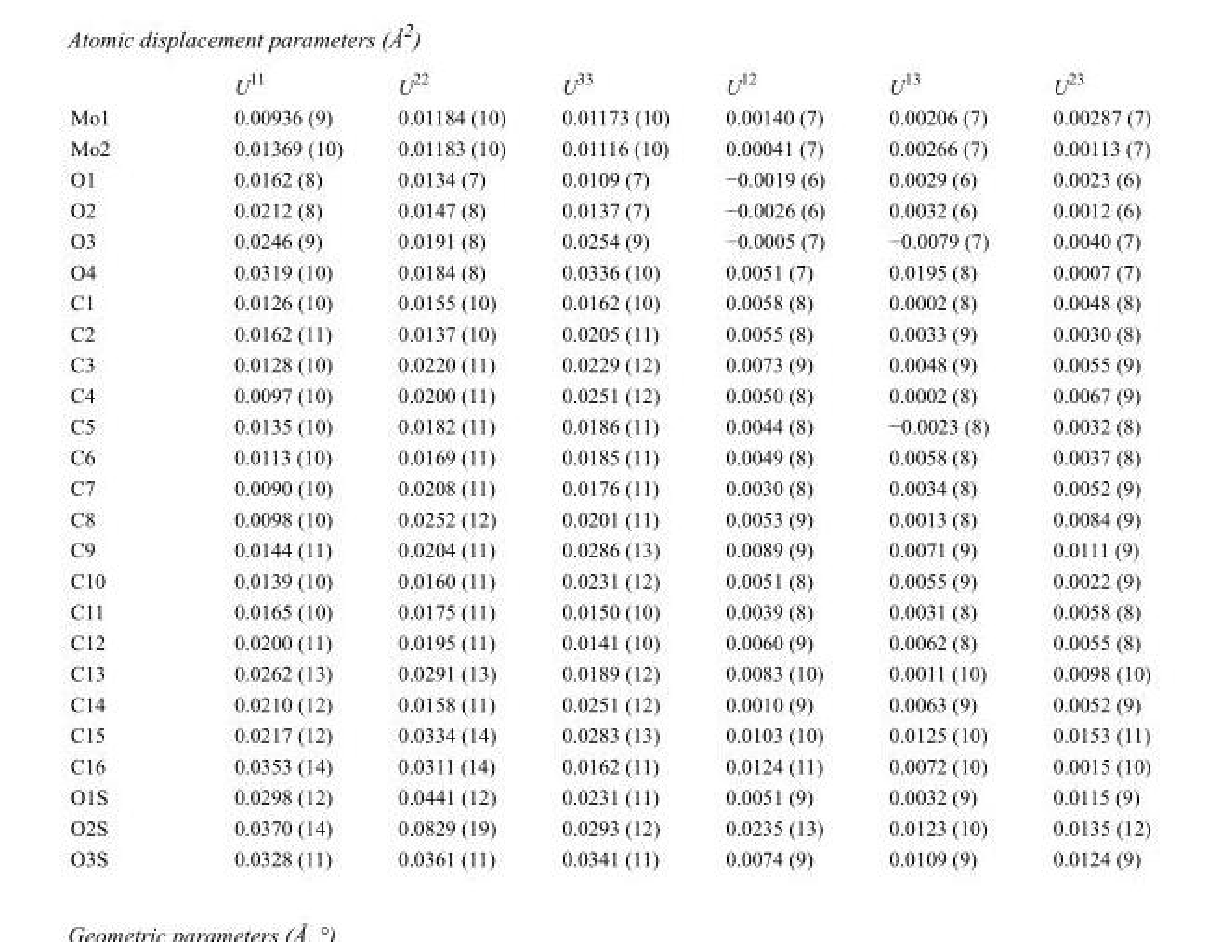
<table><thead><tr><td></td><td>U<sup>11</sup></td><td>U<sup>22</sup></td><td>U<sup>33</sup></td><td>U<sup>12</sup></td><td>U<sup>13</sup></td><td>U<sup>23</sup></td></tr></thead><tbody><tr><td>Mo1</td><td>0.00936 (9)</td><td>0.01184 (10)</td><td>0.01173 (10)</td><td>0.00140 (7)</td><td>0.00206 (7)</td><td>0.00287 (7)</td></tr><tr><td>Mo2</td><td>0.01369 (10)</td><td>0.01183 (10)</td><td>0.01116 (10)</td><td>0.00041 (7)</td><td>0.00266 (7)</td><td>0.00113 (7)</td></tr><tr><td>O1</td><td>0.0162 (8)</td><td>0.0134 (7)</td><td>0.0109 (7)</td><td>−0.0019 (6)</td><td>0.0029 (6)</td><td>0.0023 (6)</td></tr><tr><td>O2</td><td>0.0212 (8)</td><td>0.0147 (8)</td><td>0.0137 (7)</td><td>−0.0026 (6)</td><td>0.0032 (6)</td><td>0.0012 (6)</td></tr><tr><td>O3</td><td>0.0246 (9)</td><td>0.0191 (8)</td><td>0.0254 (9)</td><td>−0.0005 (7)</td><td>−0.0079 (7)</td><td>0.0040 (7)</td></tr><tr><td>O4</td><td>0.0319 (10)</td><td>0.0184 (8)</td><td>0.0336 (10)</td><td>0.0051 (7)</td><td>0.0195 (8)</td><td>0.0007 (7)</td></tr><tr><td>C1</td><td>0.0126 (10)</td><td>0.0155 (10)</td><td>0.0162 (10)</td><td>0.0058 (8)</td><td>0.0002 (8)</td><td>0.0048 (8)</td></tr><tr><td>C2</td><td>0.0162 (11)</td><td>0.0137 (10)</td><td>0.0205 (11)</td><td>0.0055 (8)</td><td>0.0033 (9)</td><td>0.0030 (8)</td></tr><tr><td>C3</td><td>0.0128 (10)</td><td>0.0220 (11)</td><td>0.0229 (12)</td><td>0.0073 (9)</td><td>0.0048 (9)</td><td>0.0055 (9)</td></tr><tr><td>C4</td><td>0.0097 (10)</td><td>0.0200 (11)</td><td>0.0251 (12)</td><td>0.0050 (8)</td><td>0.0002 (8)</td><td>0.0067 (9)</td></tr><tr><td>C5</td><td>0.0135 (10)</td><td>0.0182 (11)</td><td>0.0186 (11)</td><td>0.0044 (8)</td><td>−0.0023 (8)</td><td>0.0032 (8)</td></tr><tr><td>C6</td><td>0.0113 (10)</td><td>0.0169 (11)</td><td>0.0185 (11)</td><td>0.0049 (8)</td><td>0.0058 (8)</td><td>0.0037 (8)</td></tr><tr><td>C7</td><td>0.0090 (10)</td><td>0.0208 (11)</td><td>0.0176 (11)</td><td>0.0030 (8)</td><td>0.0034 (8)</td><td>0.0052 (9)</td></tr><tr><td>C8</td><td>0.0098 (10)</td><td>0.0252 (12)</td><td>0.0201 (11)</td><td>0.0053 (9)</td><td>0.0013 (8)</td><td>0.0084 (9)</td></tr><tr><td>C9</td><td>0.0144 (11)</td><td>0.0204 (11)</td><td>0.0286 (13)</td><td>0.0089 (9)</td><td>0.0071 (9)</td><td>0.0111 (9)</td></tr><tr><td>C10</td><td>0.0139 (10)</td><td>0.0160 (11)</td><td>0.0231 (12)</td><td>0.0051 (8)</td><td>0.0055 (9)</td><td>0.0022 (9)</td></tr><tr><td>C11</td><td>0.0165 (10)</td><td>0.0175 (11)</td><td>0.0150 (10)</td><td>0.0039 (8)</td><td>0.0031 (8)</td><td>0.0058 (8)</td></tr><tr><td>C12</td><td>0.0200 (11)</td><td>0.0195 (11)</td><td>0.0141 (10)</td><td>0.0060 (9)</td><td>0.0062 (8)</td><td>0.0055 (8)</td></tr><tr><td>C13</td><td>0.0262 (13)</td><td>0.0291 (13)</td><td>0.0189 (12)</td><td>0.0083 (10)</td><td>0.0011 (10)</td><td>0.0098 (10)</td></tr><tr><td>C14</td><td>0.0210 (12)</td><td>0.0158 (11)</td><td>0.0251 (12)</td><td>0.0010 (9)</td><td>0.0063 (9)</td><td>0.0052 (9)</td></tr><tr><td>C15</td><td>0.0217 (12)</td><td>0.0334 (14)</td><td>0.0283 (13)</td><td>0.0103 (10)</td><td>0.0125 (10)</td><td>0.0153 (11)</td></tr><tr><td>C16</td><td>0.0353 (14)</td><td>0.0311 (14)</td><td>0.0162 (11)</td><td>0.0124 (11)</td><td>0.0072 (10)</td><td>0.0015 (10)</td></tr><tr><td>O1S</td><td>0.0298 (12)</td><td>0.0441 (12)</td><td>0.0231 (11)</td><td>0.0051 (9)</td><td>0.0032 (9)</td><td>0.0115 (9)</td></tr><tr><td>O2S</td><td>0.0370 (14)</td><td>0.0829 (19)</td><td>0.0293 (12)</td><td>0.0235 (13)</td><td>0.0123 (10)</td><td>0.0135 (12)</td></tr><tr><td>O3S</td><td>0.0328 (11)</td><td>0.0361 (11)</td><td>0.0341 (11)</td><td>0.0074 (9)</td><td>0.0109 (9)</td><td>0.0124 (9)</td></tr></tbody></table>